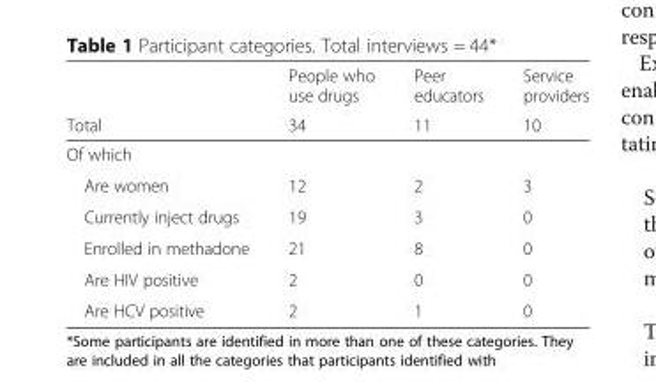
<table><thead><tr><td rowspan="2">Total</td><td rowspan="2">People who use drugs 34</td><td rowspan="2">Peer educators 11</td><td rowspan="2">Service providers 10</td></tr><tr></tr></thead><tbody><tr><td colspan="4">Of which</td></tr><tr><td>Are women</td><td>12</td><td>2</td><td>3</td></tr><tr><td>Currently inject drugs</td><td>19</td><td>3</td><td>0</td></tr><tr><td>Enrolled in methadone</td><td>21</td><td>8</td><td>0</td></tr><tr><td>Are HIV positive</td><td>2</td><td>0</td><td>0</td></tr><tr><td>Are HCV positive</td><td>2</td><td>1</td><td>0</td></tr></tbody></table>